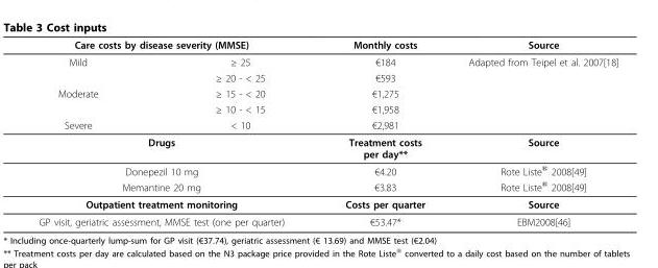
<table><thead><tr><td colspan="2">Care costs by disease severity (MMSE)</td><td rowspan="2">Monthly costs €184</td><td rowspan="2">Source Adapted from Teipel et al. 2007[18]</td></tr><tr><td>Mild</td><td>≥ 25</td></tr></thead><tbody><tr><td></td><td>≥ 20 - &lt; 25</td><td>€593</td><td></td></tr><tr><td rowspan="2">Moderate</td><td>≥ 15 - &lt; 20</td><td>€1,275</td><td></td></tr><tr><td>≥ 10 - &lt; 15</td><td>€1,958</td><td></td></tr><tr><td>Severe</td><td>&lt; 10</td><td>€2,981</td><td></td></tr><tr><td colspan="2">Drugs</td><td>Treatment costs per day**</td><td>Source</td></tr><tr><td colspan="2">Donepezil 10 mg</td><td>€4.20</td><td>Rote Liste<sup>®</sup> 2008[49]</td></tr><tr><td colspan="2">Memantine 20 mg</td><td>€3.83</td><td>Rote Liste<sup>®</sup> 2008[49]</td></tr><tr><td colspan="2">Outpatient treatment monitoring</td><td>Costs per quarter</td><td>Source</td></tr><tr><td colspan="2">GP visit, geriatric assessment, MMSE test (one per quarter)</td><td>€53.47*</td><td>EBM2008[46]</td></tr></tbody></table>